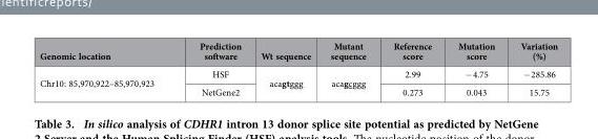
<table><thead><tr><td>Genomic location</td><td>Prediction software</td><td>Wt sequence</td><td>Mutant sequence</td><td>Reference score</td><td>Mutation score</td><td>Variation (%)</td></tr></thead><tbody><tr><td rowspan="2">Chr10: 85,970,922–85,970,923</td><td>HSF</td><td rowspan="2">acagtggg</td><td rowspan="2">acagcggg</td><td>2.99</td><td>− 4.75</td><td>− 285.86</td></tr><tr><td>NetGene2</td><td>0.273</td><td>0.043</td><td>15.75</td></tr></tbody></table>